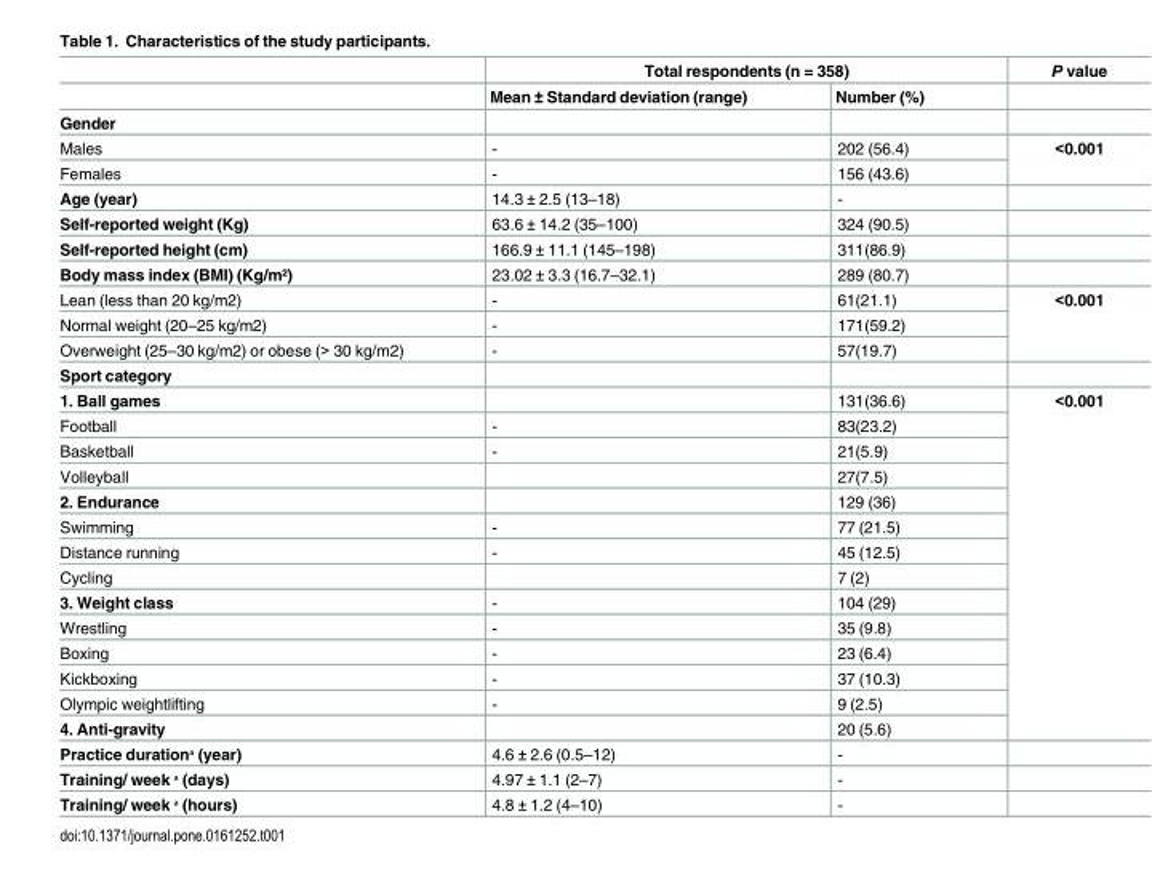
<table><thead><tr><td rowspan="2"></td><td colspan="2">Total respondents (n = 358)</td><td rowspan="2">P value</td></tr><tr><td>Mean ± Standard deviation (range)</td><td>Number (%)</td></tr></thead><tbody><tr><td colspan="4">Gender</td></tr><tr><td>Males</td><td>-</td><td>202 (56.4)</td><td rowspan="2">&lt;0.001</td></tr><tr><td>Females</td><td>-</td><td>156 (43.6)</td></tr><tr><td>Age (year)</td><td>14.3 ± 2.5 (13–18)</td><td>-</td><td></td></tr><tr><td>Self-reported weight (Kg)</td><td>63.6 ± 14.2 (35–100)</td><td>324 (90.5)</td><td></td></tr><tr><td>Self-reported height (cm)</td><td>166.9 ± 11.1 (145–198)</td><td>311(86.9)</td><td></td></tr><tr><td>Body mass index (BMI) (Kg/m²)</td><td>23.02 ± 3.3 (16.7–32.1)</td><td>289 (80.7)</td><td></td></tr><tr><td>Lean (less than 20 kg/m2)</td><td>-</td><td>61(21.1)</td><td rowspan="3">&lt;0.001</td></tr><tr><td>Normal weight (20–25 kg/m2)</td><td>-</td><td>171(59.2)</td></tr><tr><td>Overweight (25–30 kg/m2) or obese (&gt; 30 kg/m2)</td><td>-</td><td>57(19.7)</td></tr><tr><td colspan="4">Sport category</td></tr><tr><td>1. Ball games</td><td></td><td>131(36.6)</td><td rowspan="14">&lt;0.001</td></tr><tr><td>Football</td><td>-</td><td>83(23.2)</td></tr><tr><td>Basketball</td><td>-</td><td>21(5.9)</td></tr><tr><td>Volleyball</td><td></td><td>27(7.5)</td></tr><tr><td>2. Endurance</td><td></td><td>129 (36)</td></tr><tr><td>Swimming</td><td>-</td><td>77 (21.5)</td></tr><tr><td>Distance running</td><td>-</td><td>45 (12.5)</td></tr><tr><td>Cycling</td><td></td><td>7 (2)</td></tr><tr><td>3. Weight class</td><td>-</td><td>104 (29)</td></tr><tr><td>Wrestling</td><td>-</td><td>35 (9.8)</td></tr><tr><td>Boxing</td><td>-</td><td>23 (6.4)</td></tr><tr><td>Kickboxing</td><td>-</td><td>37 (10.3)</td></tr><tr><td>Olympic weightlifting</td><td>-</td><td>9 (2.5)</td></tr><tr><td>4. Anti-gravity</td><td></td><td>20 (5.6)</td></tr><tr><td>Practice durationᵃ (year)</td><td>4.6 ± 2.6 (0.5–12)</td><td>-</td><td></td></tr><tr><td>Training/ week ᵃ (days)</td><td>4.97 ± 1.1 (2–7)</td><td>-</td><td></td></tr><tr><td>Training/ week ᵃ (hours)</td><td>4.8 ± 1.2 (4–10)</td><td>-</td><td></td></tr></tbody></table>